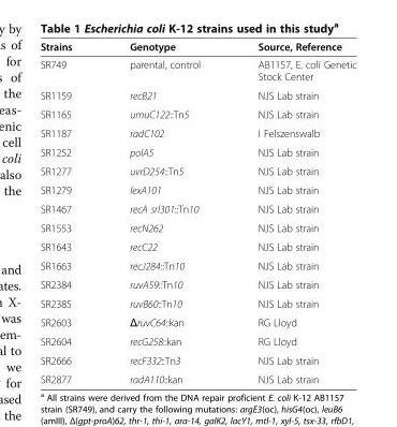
<table><thead><tr><td>Strains</td><td>Genotype</td><td>Source, Reference</td></tr></thead><tbody><tr><td>SR749</td><td>parental, control</td><td>AB1157, E. coli Genetic Stock Center</td></tr><tr><td>SR1159</td><td>recB21</td><td>NJS Lab strain</td></tr><tr><td>SR1165</td><td>umuC122::Tn5</td><td>NJS Lab strain</td></tr><tr><td>SR1187</td><td>radC102</td><td>I Felszenswalb</td></tr><tr><td>SR1252</td><td>polA5</td><td>NJS Lab strain</td></tr><tr><td>SR1277</td><td>uvrD254::Tn5</td><td>NJS Lab strain</td></tr><tr><td>SR1279</td><td>lexA101</td><td>NJS Lab strain</td></tr><tr><td>SR1467</td><td>recA srl301::Tn10</td><td>NJS Lab strain</td></tr><tr><td>SR1553</td><td>recN262</td><td>NJS Lab strain</td></tr><tr><td>SR1643</td><td>recC22</td><td>NJS Lab strain</td></tr><tr><td>SR1663</td><td>recJ284::Tn10</td><td>NJS Lab strain</td></tr><tr><td>SR2384</td><td>ruvA59::Tn10</td><td>NJS Lab strain</td></tr><tr><td>SR2385</td><td>ruvB60::Tn10</td><td>NJS Lab strain</td></tr><tr><td>SR2603</td><td>ΔruvC64::kan</td><td>RG Lloyd</td></tr><tr><td>SR2604</td><td>recG258::kan</td><td>RG Lloyd</td></tr><tr><td>SR2666</td><td>recF332::Tn3</td><td>NJS Lab strain</td></tr><tr><td>SR2877</td><td>radA110::kan</td><td>NJS Lab strain</td></tr></tbody></table>